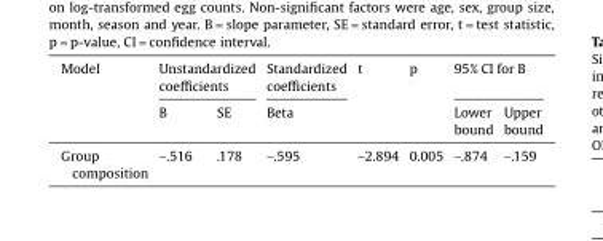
<table><thead><tr><td rowspan="2">Model</td><td colspan="2">Unstandardized coefficients</td><td rowspan="2">Standardized coefficients Beta</td><td rowspan="2">t</td><td rowspan="2">p</td><td colspan="2">95% CI for B</td></tr><tr><td>B</td><td>SE</td><td>Lower bound</td><td>Upper bound</td></tr></thead><tbody><tr><td>Group composition</td><td>−.516</td><td>.178</td><td>−.595</td><td>−2.894</td><td>0.005</td><td>−.874</td><td>−.159</td></tr></tbody></table>